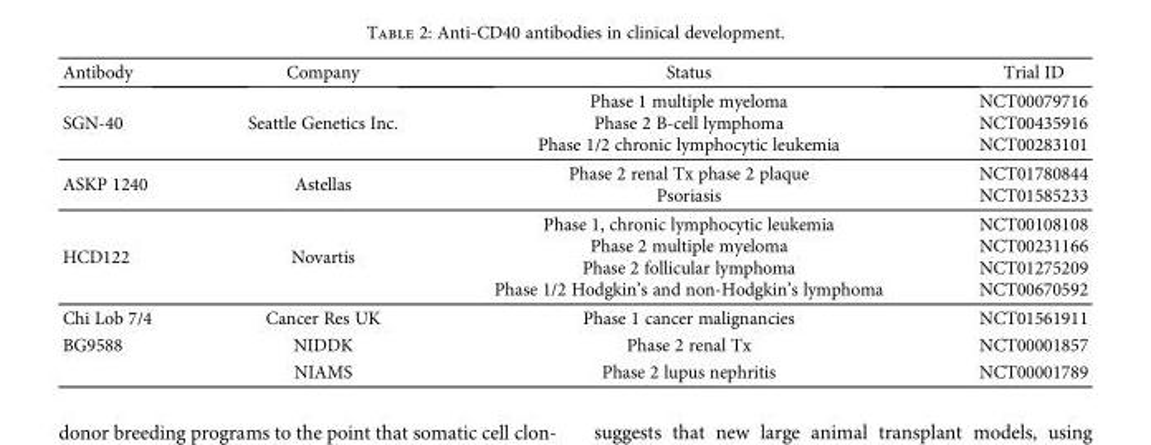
<table><thead><tr><td>Antibody</td><td>Company</td><td>Status</td><td>Trial ID</td></tr></thead><tbody><tr><td>SGN-40</td><td>Seattle Genetics Inc.</td><td>Phase 1 multiple myeloma Phase 2 B-cell lymphoma Phase 1/2 chronic lymphocytic leukemia</td><td>NCT00079716 NCT00435916 NCT00283101</td></tr><tr><td>ASKP 1240</td><td>Astellas</td><td>Phase 2 renal Tx phase 2 plaque Psoriasis</td><td>NCT01780844 NCT01585233</td></tr><tr><td>HCD122</td><td>Novartis</td><td>Phase 1, chronic lymphocytic leukemia Phase 2 multiple myeloma Phase 2 follicular lymphoma Phase 1/2 Hodgkin’s and non-Hodgkin’s lymphoma</td><td>NCT00108108 NCT00231166 NCT01275209 NCT00670592</td></tr><tr><td>Chi Lob 7/4</td><td>Cancer Res UK</td><td>Phase 1 cancer malignancies</td><td>NCT01561911</td></tr><tr><td rowspan="2">BG9588</td><td>NIDDK</td><td>Phase 2 renal Tx</td><td>NCT00001857</td></tr><tr><td>NIAMS</td><td>Phase 2 lupus nephritis</td><td>NCT00001789</td></tr></tbody></table>